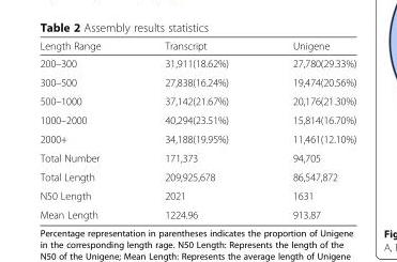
<table><thead><tr><td>Length Range</td><td>Transcript</td><td>Unigene</td></tr></thead><tbody><tr><td>200–300</td><td>31,911(18.62%)</td><td>27,780(29.33%)</td></tr><tr><td>300–500</td><td>27,838(16.24%)</td><td>19,474(20.56%)</td></tr><tr><td>500–1000</td><td>37,142(21.67%)</td><td>20,176(21.30%)</td></tr><tr><td>1000–2000</td><td>40,294(23.51%)</td><td>15,814(16.70%)</td></tr><tr><td>2000+</td><td>34,188(19.95%)</td><td>11,461(12.10%)</td></tr><tr><td>Total Number</td><td>171,373</td><td>94,705</td></tr><tr><td>Total Length</td><td>209,925,678</td><td>86,547,872</td></tr><tr><td>N50 Length</td><td>2021</td><td>1631</td></tr><tr><td>Mean Length</td><td>1224.96</td><td>913.87</td></tr></tbody></table>